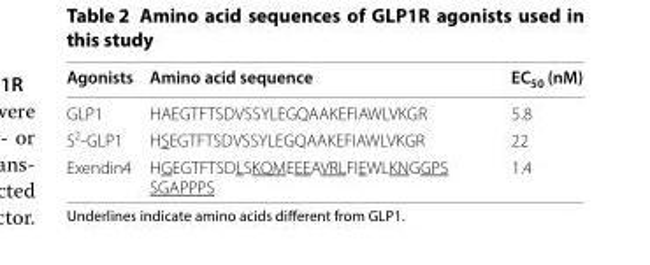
<table><thead><tr><td>Agonists</td><td>Amino acid sequence</td><td>EC<sub>50</sub> (nM)</td></tr></thead><tbody><tr><td>GLP1</td><td>HAEGTFTSDVSSYLEGQAAKEFIAWLVKGR</td><td>5.8</td></tr><tr><td>S<sup>2</sup>-GLP1</td><td>HSEGTFTSDVSSYLEGQAAKEFIAWLVKGR</td><td>22</td></tr><tr><td>Exendin4</td><td>HGEGTFTSDLSKQMEEEAVRLFIEWLKNGGPS SGAPPPS</td><td>1.4</td></tr></tbody></table>